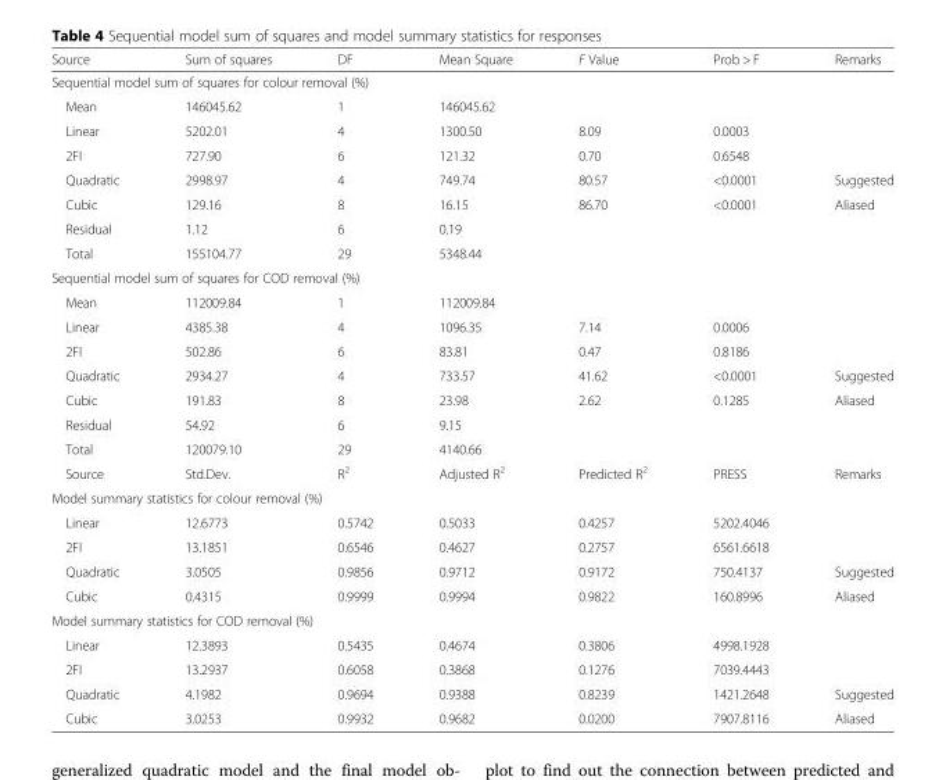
<table><thead><tr><td>Source</td><td>Sum of squares</td><td>DF</td><td>Mean Square</td><td>F Value</td><td>Prob &gt; F</td><td>Remarks</td></tr></thead><tbody><tr><td colspan="7">Sequential model sum of squares for colour removal (%)</td></tr><tr><td>Mean</td><td>146045.62</td><td>1</td><td>146045.62</td><td></td><td></td><td></td></tr><tr><td>Linear</td><td>5202.01</td><td>4</td><td>1300.50</td><td>8.09</td><td>0.0003</td><td></td></tr><tr><td>2FI</td><td>727.90</td><td>6</td><td>121.32</td><td>0.70</td><td>0.6548</td><td></td></tr><tr><td>Quadratic</td><td>2998.97</td><td>4</td><td>749.74</td><td>80.57</td><td>&lt;0.0001</td><td>Suggested</td></tr><tr><td>Cubic</td><td>129.16</td><td>8</td><td>16.15</td><td>86.70</td><td>&lt;0.0001</td><td>Aliased</td></tr><tr><td>Residual</td><td>1.12</td><td>6</td><td>0.19</td><td></td><td></td><td></td></tr><tr><td>Total</td><td>155104.77</td><td>29</td><td>5348.44</td><td></td><td></td><td></td></tr><tr><td colspan="7">Sequential model sum of squares for COD removal (%)</td></tr><tr><td>Mean</td><td>112009.84</td><td>1</td><td>112009.84</td><td></td><td></td><td></td></tr><tr><td>Linear</td><td>4385.38</td><td>4</td><td>1096.35</td><td>7.14</td><td>0.0006</td><td></td></tr><tr><td>2FI</td><td>502.86</td><td>6</td><td>83.81</td><td>0.47</td><td>0.8186</td><td></td></tr><tr><td>Quadratic</td><td>2934.27</td><td>4</td><td>733.57</td><td>41.62</td><td>&lt;0.0001</td><td>Suggested</td></tr><tr><td>Cubic</td><td>191.83</td><td>8</td><td>23.98</td><td>2.62</td><td>0.1285</td><td>Aliased</td></tr><tr><td>Residual</td><td>54.92</td><td>6</td><td>9.15</td><td></td><td></td><td></td></tr><tr><td>Total</td><td>120079.10</td><td>29</td><td>4140.66</td><td></td><td></td><td></td></tr><tr><td>Source</td><td>Std.Dev.</td><td>R<sup>2</sup></td><td>Adjusted R<sup>2</sup></td><td>Predicted R<sup>2</sup></td><td>PRESS</td><td>Remarks</td></tr><tr><td colspan="7">Model summary statistics for colour removal (%)</td></tr><tr><td>Linear</td><td>12.6773</td><td>0.5742</td><td>0.5033</td><td>0.4257</td><td>5202.4046</td><td></td></tr><tr><td>2FI</td><td>13.1851</td><td>0.6546</td><td>0.4627</td><td>0.2757</td><td>6561.6618</td><td></td></tr><tr><td>Quadratic</td><td>3.0505</td><td>0.9856</td><td>0.9712</td><td>0.9172</td><td>750.4137</td><td>Suggested</td></tr><tr><td>Cubic</td><td>0.4315</td><td>0.9999</td><td>0.9994</td><td>0.9822</td><td>160.8996</td><td>Aliased</td></tr><tr><td colspan="7">Model summary statistics for COD removal (%)</td></tr><tr><td>Linear</td><td>12.3893</td><td>0.5435</td><td>0.4674</td><td>0.3806</td><td>4998.1928</td><td></td></tr><tr><td>2FI</td><td>13.2937</td><td>0.6058</td><td>0.3868</td><td>0.1276</td><td>7039.4443</td><td></td></tr><tr><td>Quadratic</td><td>4.1982</td><td>0.9694</td><td>0.9388</td><td>0.8239</td><td>1421.2648</td><td>Suggested</td></tr><tr><td>Cubic</td><td>3.0253</td><td>0.9932</td><td>0.9682</td><td>0.0200</td><td>7907.8116</td><td>Aliased</td></tr></tbody></table>